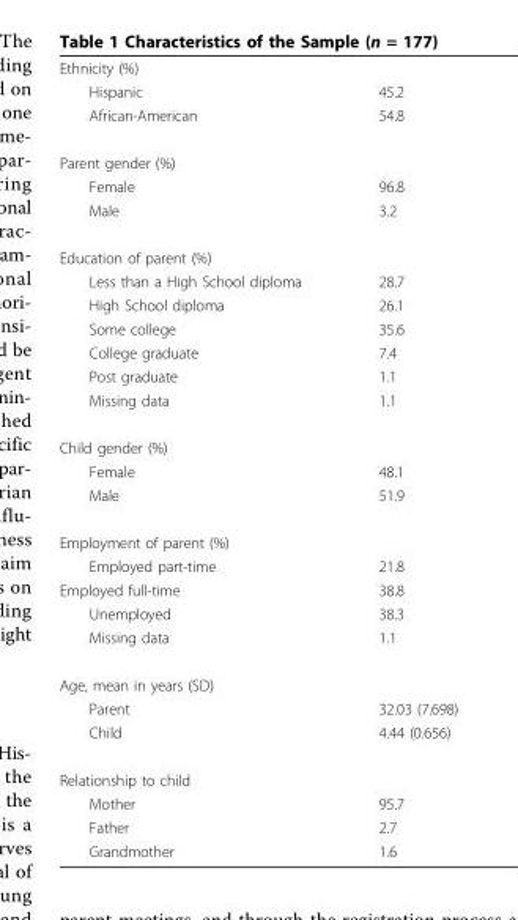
<table><tbody><tr><td colspan="2">Ethnicity (%)</td></tr><tr><td>Hispanic</td><td>45.2</td></tr><tr><td>African-American</td><td>54.8</td></tr><tr><td colspan="2">Parent gender (%)</td></tr><tr><td>Female</td><td>96.8</td></tr><tr><td>Male</td><td>3.2</td></tr><tr><td colspan="2">Education of parent (%)</td></tr><tr><td>Less than a High School diploma</td><td>28.7</td></tr><tr><td>High School diploma</td><td>26.1</td></tr><tr><td>Some college</td><td>35.6</td></tr><tr><td>College graduate</td><td>7.4</td></tr><tr><td>Post graduate</td><td>1.1</td></tr><tr><td>Missing data</td><td>1.1</td></tr><tr><td colspan="2">Child gender (%)</td></tr><tr><td>Female</td><td>48.1</td></tr><tr><td>Male</td><td>51.9</td></tr><tr><td colspan="2">Employment of parent (%)</td></tr><tr><td>Employed part-time</td><td>21.8</td></tr><tr><td>Employed full-time</td><td>38.8</td></tr><tr><td>Unemployed</td><td>38.3</td></tr><tr><td>Missing data</td><td>1.1</td></tr><tr><td colspan="2">Age, mean in years (SD)</td></tr><tr><td>Parent</td><td>32.03 (7.698)</td></tr><tr><td>Child</td><td>4.44 (0.656)</td></tr><tr><td colspan="2">Relationship to child</td></tr><tr><td>Mother</td><td>95.7</td></tr><tr><td>Father</td><td>2.7</td></tr><tr><td>Grandmother</td><td>1.6</td></tr></tbody></table>